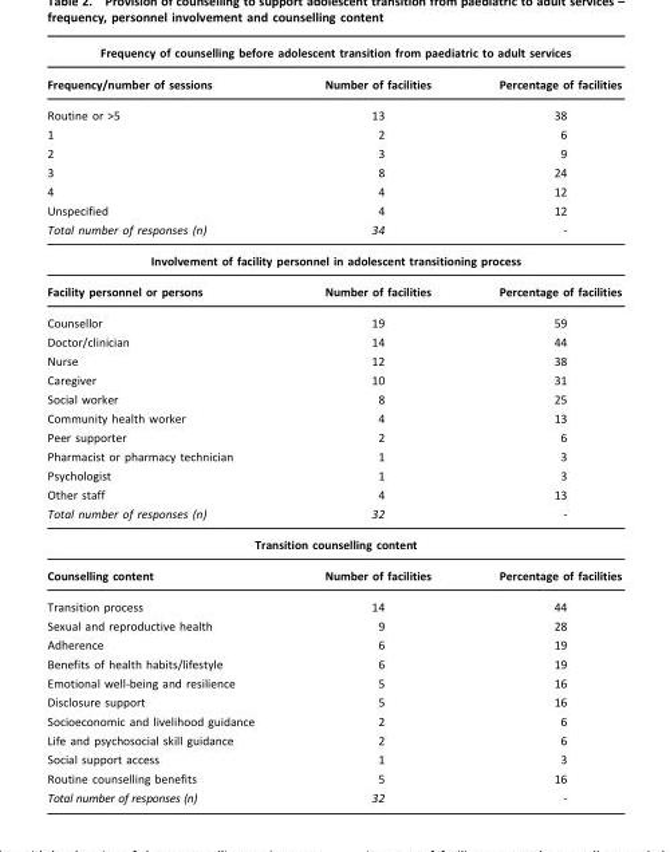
<table><thead><tr><td colspan="3">Frequency of counselling before adolescent transition from paediatric to adult services</td></tr><tr><td>Frequency/number of sessions</td><td>Number of facilities</td><td>Percentage of facilities</td></tr></thead><tbody><tr><td>Routine or &gt;5</td><td>13</td><td>38</td></tr><tr><td>1</td><td>2</td><td>6</td></tr><tr><td>2</td><td>3</td><td>9</td></tr><tr><td>3</td><td>8</td><td>24</td></tr><tr><td>4</td><td>4</td><td>12</td></tr><tr><td>Unspecified</td><td>4</td><td>12</td></tr><tr><td>Total number of responses (n)</td><td>34</td><td>-</td></tr><tr><td colspan="3">Involvement of facility personnel in adolescent transitioning process</td></tr><tr><td>Facility personnel or persons</td><td>Number of facilities</td><td>Percentage of facilities</td></tr><tr><td>Counsellor</td><td>19</td><td>59</td></tr><tr><td>Doctor/clinician</td><td>14</td><td>44</td></tr><tr><td>Nurse</td><td>12</td><td>38</td></tr><tr><td>Caregiver</td><td>10</td><td>31</td></tr><tr><td>Social worker</td><td>8</td><td>25</td></tr><tr><td>Community health worker</td><td>4</td><td>13</td></tr><tr><td>Peer supporter</td><td>2</td><td>6</td></tr><tr><td>Pharmacist or pharmacy technician</td><td>1</td><td>3</td></tr><tr><td>Psychologist</td><td>1</td><td>3</td></tr><tr><td>Other staff</td><td>4</td><td>13</td></tr><tr><td>Total number of responses (n)</td><td>32</td><td>-</td></tr><tr><td colspan="3">Transition counselling content</td></tr><tr><td>Counselling content</td><td>Number of facilities</td><td>Percentage of facilities</td></tr><tr><td>Transition process</td><td>14</td><td>44</td></tr><tr><td>Sexual and reproductive health</td><td>9</td><td>28</td></tr><tr><td>Adherence</td><td>6</td><td>19</td></tr><tr><td>Benefits of health habits/lifestyle</td><td>6</td><td>19</td></tr><tr><td>Emotional well-being and resilience</td><td>5</td><td>16</td></tr><tr><td>Disclosure support</td><td>5</td><td>16</td></tr><tr><td>Socioeconomic and livelihood guidance</td><td>2</td><td>6</td></tr><tr><td>Life and psychosocial skill guidance</td><td>2</td><td>6</td></tr><tr><td>Social support access</td><td>1</td><td>3</td></tr><tr><td>Routine counselling benefits</td><td>5</td><td>16</td></tr><tr><td>Total number of responses (n)</td><td>32</td><td>-</td></tr></tbody></table>